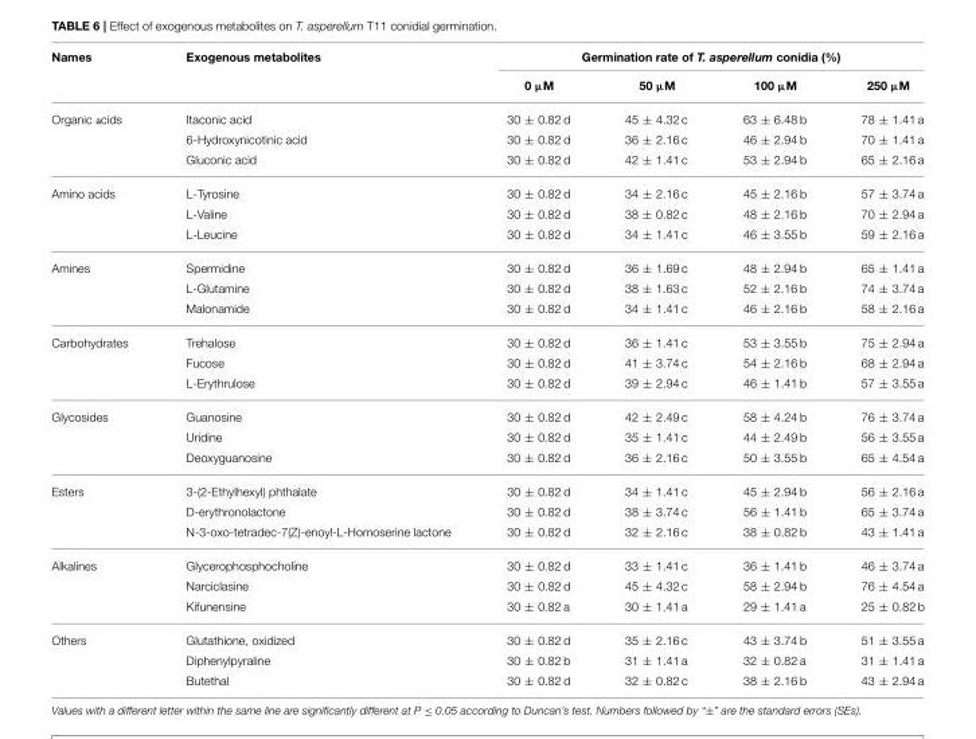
<table><thead><tr><td rowspan="2">Names</td><td rowspan="2">Exogenous metabolites</td><td colspan="4">Germination rate of T. asperellum conidia (%)</td></tr><tr><td>0 µM</td><td>50 µM</td><td>100 µM</td><td>250 µM</td></tr></thead><tbody><tr><td rowspan="3">Organic acids</td><td>Itaconic acid</td><td>30 ± 0.82 d</td><td>45 ± 4.32 c</td><td>63 ± 6.48 b</td><td>78 ± 1.41 a</td></tr><tr><td>6-Hydroxynicotinic acid</td><td>30 ± 0.82 d</td><td>36 ± 2.16 c</td><td>46 ± 2.94 b</td><td>70 ± 1.41 a</td></tr><tr><td>Gluconic acid</td><td>30 ± 0.82 d</td><td>42 ± 1.41 c</td><td>53 ± 2.94 b</td><td>65 ± 2.16 a</td></tr><tr><td rowspan="3">Amino acids</td><td>L-Tyrosine</td><td>30 ± 0.82 d</td><td>34 ± 2.16 c</td><td>45 ± 2.16 b</td><td>57 ± 3.74 a</td></tr><tr><td>L-Valine</td><td>30 ± 0.82 d</td><td>38 ± 0.82 c</td><td>48 ± 2.16 b</td><td>70 ± 2.94 a</td></tr><tr><td>L-Leucine</td><td>30 ± 0.82 d</td><td>34 ± 1.41 c</td><td>46 ± 3.55 b</td><td>59 ± 2.16 a</td></tr><tr><td rowspan="3">Amines</td><td>Spermidine</td><td>30 ± 0.82 d</td><td>36 ± 1.69 c</td><td>48 ± 2.94 b</td><td>65 ± 1.41 a</td></tr><tr><td>L-Glutamine</td><td>30 ± 0.82 d</td><td>38 ± 1.63 c</td><td>52 ± 2.16 b</td><td>74 ± 3.74 a</td></tr><tr><td>Malonamide</td><td>30 ± 0.82 d</td><td>34 ± 1.41 c</td><td>46 ± 2.16 b</td><td>58 ± 2.16 a</td></tr><tr><td rowspan="3">Carbohydrates</td><td>Trehalose</td><td>30 ± 0.82 d</td><td>36 ± 1.41 c</td><td>53 ± 3.55 b</td><td>75 ± 2.94 a</td></tr><tr><td>Fucose</td><td>30 ± 0.82 d</td><td>41 ± 3.74 c</td><td>54 ± 2.16 b</td><td>68 ± 2.94 a</td></tr><tr><td>L-Erythrulose</td><td>30 ± 0.82 d</td><td>39 ± 2.94 c</td><td>46 ± 1.41 b</td><td>57 ± 3.55 a</td></tr><tr><td rowspan="3">Glycosides</td><td>Guanosine</td><td>30 ± 0.82 d</td><td>42 ± 2.49 c</td><td>58 ± 4.24 b</td><td>76 ± 3.74 a</td></tr><tr><td>Uridine</td><td>30 ± 0.82 d</td><td>35 ± 1.41 c</td><td>44 ± 2.49 b</td><td>56 ± 3.55 a</td></tr><tr><td>Deoxyguanosine</td><td>30 ± 0.82 d</td><td>36 ± 2.16 c</td><td>50 ± 3.55 b</td><td>65 ± 4.54 a</td></tr><tr><td rowspan="3">Esters</td><td>3-(2-Ethylhexyl) phthalate</td><td>30 ± 0.82 d</td><td>34 ± 1.41 c</td><td>45 ± 2.94 b</td><td>56 ± 2.16 a</td></tr><tr><td>D-erythronolactone</td><td>30 ± 0.82 d</td><td>38 ± 3.74 c</td><td>56 ± 1.41 b</td><td>65 ± 3.74 a</td></tr><tr><td>N-3-oxo-tetradec-7(Z)-enoyl-L-Homoserine lactone</td><td>30 ± 0.82 d</td><td>32 ± 2.16 c</td><td>38 ± 0.82 b</td><td>43 ± 1.41 a</td></tr><tr><td rowspan="3">Alkalines</td><td>Glycerophosphocholine</td><td>30 ± 0.82 d</td><td>33 ± 1.41 c</td><td>36 ± 1.41 b</td><td>46 ± 3.74 a</td></tr><tr><td>Narciclasine</td><td>30 ± 0.82 d</td><td>45 ± 4.32 c</td><td>58 ± 2.94 b</td><td>76 ± 4.54 a</td></tr><tr><td>Kifunensine</td><td>30 ± 0.82 a</td><td>30 ± 1.41 a</td><td>29 ± 1.41 a</td><td>25 ± 0.82 b</td></tr><tr><td rowspan="3">Others</td><td>Glutathione, oxidized</td><td>30 ± 0.82 d</td><td>35 ± 2.16 c</td><td>43 ± 3.74 b</td><td>51 ± 3.55 a</td></tr><tr><td>Diphenylpyraline</td><td>30 ± 0.82 b</td><td>31 ± 1.41 a</td><td>32 ± 0.82 a</td><td>31 ± 1.41 a</td></tr><tr><td>Butethal</td><td>30 ± 0.82 d</td><td>32 ± 0.82 c</td><td>38 ± 2.16 b</td><td>43 ± 2.94 a</td></tr></tbody></table>